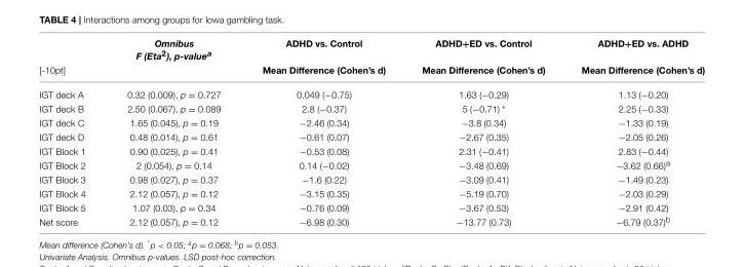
<table><thead><tr><td rowspan="2">[-10pt]</td><td rowspan="2">Omnibus F (Eta2), p-valuea</td><td rowspan="2">ADHD vs. Control Mean Difference (Cohen’s d)</td><td rowspan="2">ADHD+ED vs. Control Mean Difference (Cohen’s d)</td><td rowspan="2">ADHD+ED vs. ADHD Mean Difference (Cohen’s d)</td></tr><tr></tr></thead><tbody><tr><td>IGT deck A</td><td>0.32 (0.009), p = 0.727</td><td>0.049 (−0.75)</td><td>1.63 (−0.29)</td><td>1.13 (−0.20)</td></tr><tr><td>IGT deck B</td><td>2.50 (0.067), p = 0.089</td><td>2.8 (−0.37)</td><td>5 (−0.71) *</td><td>2.25 (−0.33)</td></tr><tr><td>IGT deck C</td><td>1.65 (0.045), p = 0.19</td><td>−2.46 (0.34)</td><td>−3.8 (0.34)</td><td>−1.33 (0.19)</td></tr><tr><td>IGT deck D</td><td>0.48 (0.014), p = 0.61</td><td>−0.61 (0.07)</td><td>−2.67 (0.35)</td><td>−2.05 (0.26)</td></tr><tr><td>IGT Block 1</td><td>0.90 (0.025), p = 0.41</td><td>−0.53 (0.08)</td><td>2.31 (−0.41)</td><td>2.83 (−0.44)</td></tr><tr><td>IGT Block 2</td><td>2 (0.054), p = 0.14</td><td>0.14 (−0.02)</td><td>−3.48 (0.69)</td><td>−3.62 (0.66)<sup>a</sup></td></tr><tr><td>IGT Block 3</td><td>0.98 (0.027), p = 0.37</td><td>−1.6 (0.22)</td><td>−3.09 (0.41)</td><td>−1.49 (0.23)</td></tr><tr><td>IGT Block 4</td><td>2.12 (0.057), p = 0.12</td><td>−3.15 (0.35)</td><td>−5.19 (0.70)</td><td>−2.03 (0.29)</td></tr><tr><td>IGT Block 5</td><td>1.07 (0.03), p = 0.34</td><td>−0.76 (0.09)</td><td>−3.67 (0.53)</td><td>−2.91 (0.42)</td></tr><tr><td>Net score</td><td>2.12 (0.057), p = 0.12</td><td>−6.98 (0.30)</td><td>−13.77 (0.73)</td><td>−6.79 (0.37)<sup>b</sup></td></tr></tbody></table>